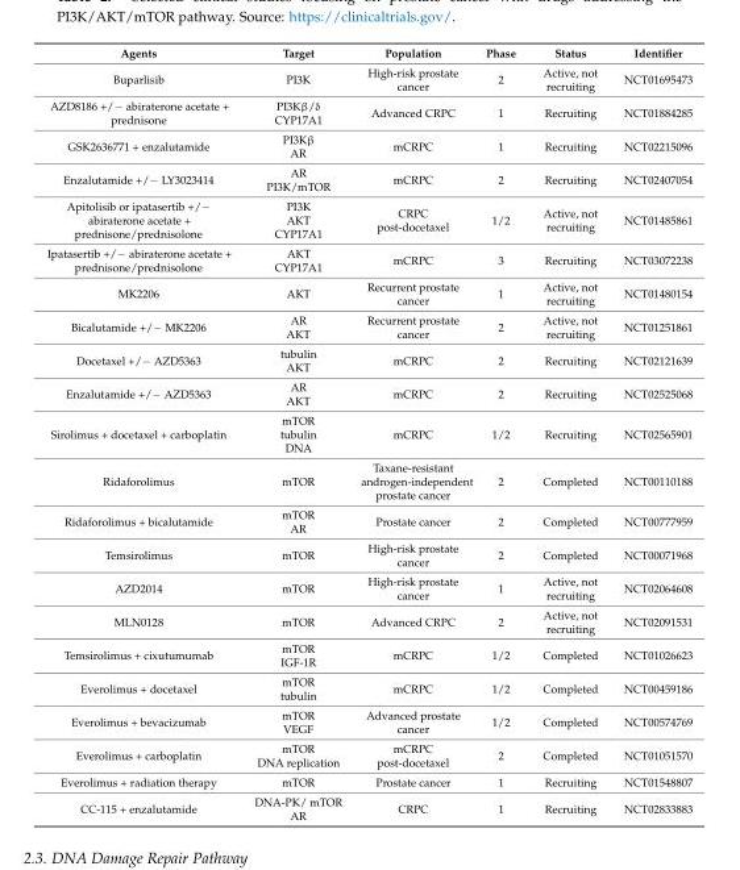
<table><thead><tr><td>Agents</td><td>Target</td><td>Population</td><td>Phase</td><td>Status</td><td>Identifier</td></tr></thead><tbody><tr><td>Buparlisib</td><td>PI3K</td><td>High-risk prostate cancer</td><td>2</td><td>Active, not recruiting</td><td>NCT01695473</td></tr><tr><td>AZD8186 +/− abiraterone acetate + prednisone</td><td>PI3Kβ/δ CYP17A1</td><td>Advanced CRPC</td><td>1</td><td>Recruiting</td><td>NCT01884285</td></tr><tr><td>GSK2636771 + enzalutamide</td><td>PI3Kβ AR</td><td>mCRPC</td><td>1</td><td>Recruiting</td><td>NCT02215096</td></tr><tr><td>Enzalutamide +/− LY3023414</td><td>AR PI3K/mTOR</td><td>mCRPC</td><td>2</td><td>Recruiting</td><td>NCT02407054</td></tr><tr><td>Apitolisib or ipatasertib +/− abiraterone acetate + prednisone/prednisolone</td><td>PI3K AKT CYP17A1</td><td>CRPC post-docetaxel</td><td>1/2</td><td>Active, not recruiting</td><td>NCT01485861</td></tr><tr><td>Ipatasertib +/− abiraterone acetate + prednisone/prednisolone</td><td>AKT CYP17A1</td><td>mCRPC</td><td>3</td><td>Recruiting</td><td>NCT03072238</td></tr><tr><td>MK2206</td><td>AKT</td><td>Recurrent prostate cancer</td><td>1</td><td>Active, not recruiting</td><td>NCT01480154</td></tr><tr><td>Bicalutamide +/− MK2206</td><td>AR AKT</td><td>Recurrent prostate cancer</td><td>2</td><td>Active, not recruiting</td><td>NCT01251861</td></tr><tr><td>Docetaxel +/− AZD5363</td><td>tubulin AKT</td><td>mCRPC</td><td>2</td><td>Recruiting</td><td>NCT02121639</td></tr><tr><td>Enzalutamide +/− AZD5363</td><td>AR AKT</td><td>mCRPC</td><td>2</td><td>Recruiting</td><td>NCT02525068</td></tr><tr><td>Sirolimus + docetaxel + carboplatin</td><td>mTOR tubulin DNA</td><td>mCRPC</td><td>1/2</td><td>Recruiting</td><td>NCT02565901</td></tr><tr><td>Ridaforolimus</td><td>mTOR</td><td>Taxane-resistant androgen-independent prostate cancer</td><td>2</td><td>Completed</td><td>NCT00110188</td></tr><tr><td>Ridaforolimus + bicalutamide</td><td>mTOR AR</td><td>Prostate cancer</td><td>2</td><td>Completed</td><td>NCT00777959</td></tr><tr><td>Temsirolimus</td><td>mTOR</td><td>High-risk prostate cancer</td><td>2</td><td>Completed</td><td>NCT00071968</td></tr><tr><td>AZD2014</td><td>mTOR</td><td>High-risk prostate cancer</td><td>1</td><td>Active, not recruiting</td><td>NCT02064608</td></tr><tr><td>MLN0128</td><td>mTOR</td><td>Advanced CRPC</td><td>2</td><td>Active, not recruiting</td><td>NCT02091531</td></tr><tr><td>Temsirolimus + cixutumumab</td><td>mTOR IGF-1R</td><td>mCRPC</td><td>1/2</td><td>Completed</td><td>NCT01026623</td></tr><tr><td>Everolimus + docetaxel</td><td>mTOR tubulin</td><td>mCRPC</td><td>1/2</td><td>Completed</td><td>NCT00459186</td></tr><tr><td>Everolimus + bevacizumab</td><td>mTOR VEGF</td><td>Advanced prostate cancer</td><td>1/2</td><td>Completed</td><td>NCT00574769</td></tr><tr><td>Everolimus + carboplatin</td><td>mTOR DNA replication</td><td>mCRPC post-docetaxel</td><td>2</td><td>Completed</td><td>NCT01051570</td></tr><tr><td>Everolimus + radiation therapy</td><td>mTOR</td><td>Prostate cancer</td><td>1</td><td>Recruiting</td><td>NCT01548807</td></tr><tr><td>CC-115 + enzalutamide</td><td>DNA-PK/ mTOR AR</td><td>CRPC</td><td>1</td><td>Recruiting</td><td>NCT02833883</td></tr></tbody></table>